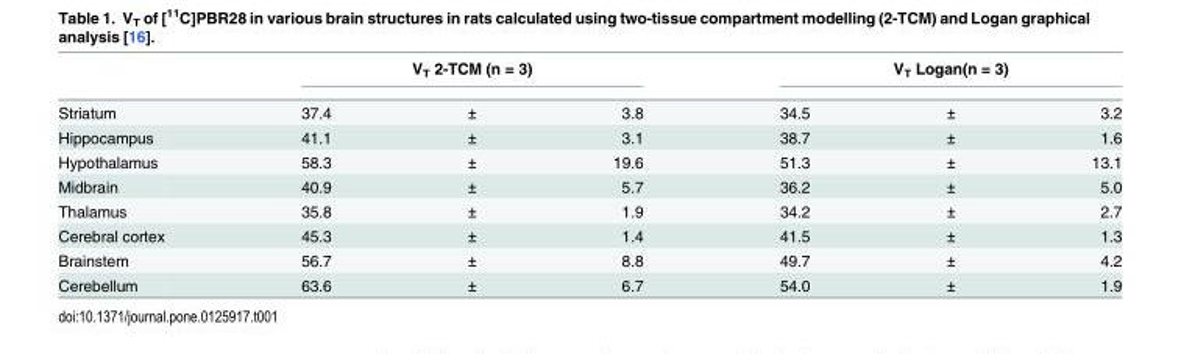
<table><thead><tr><td rowspan="2">Striatum</td><td colspan="3">V<sub>T</sub> 2-TCM (n = 3)</td><td colspan="3">V<sub>T</sub> Logan(n = 3)</td></tr><tr><td>37.4</td><td>±</td><td>3.8</td><td>34.5</td><td>±</td><td>3.2</td></tr></thead><tbody><tr><td>Hippocampus</td><td>41.1</td><td>±</td><td>3.1</td><td>38.7</td><td>±</td><td>1.6</td></tr><tr><td>Hypothalamus</td><td>58.3</td><td>±</td><td>19.6</td><td>51.3</td><td>±</td><td>13.1</td></tr><tr><td>Midbrain</td><td>40.9</td><td>±</td><td>5.7</td><td>36.2</td><td>±</td><td>5.0</td></tr><tr><td>Thalamus</td><td>35.8</td><td>±</td><td>1.9</td><td>34.2</td><td>±</td><td>2.7</td></tr><tr><td>Cerebral cortex</td><td>45.3</td><td>±</td><td>1.4</td><td>41.5</td><td>±</td><td>1.3</td></tr><tr><td>Brainstem</td><td>56.7</td><td>±</td><td>8.8</td><td>49.7</td><td>±</td><td>4.2</td></tr><tr><td>Cerebellum</td><td>63.6</td><td>±</td><td>6.7</td><td>54.0</td><td>±</td><td>1.9</td></tr></tbody></table>